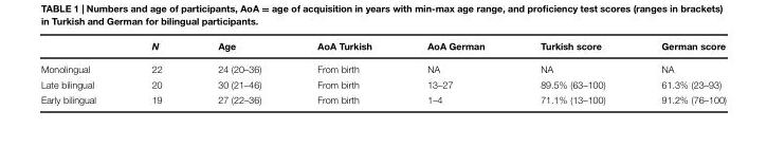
<table><thead><tr><td></td><td>N</td><td>Age</td><td>AoA Turkish</td><td>AoA German</td><td>Turkish score</td><td>German score</td></tr></thead><tbody><tr><td>Monolingual</td><td>22</td><td>24 (20–36)</td><td>From birth</td><td>NA</td><td>NA</td><td>NA</td></tr><tr><td>Late bilingual</td><td>20</td><td>30 (21–46)</td><td>From birth</td><td>13–27</td><td>89.5% (63–100)</td><td>61.3% (23–93)</td></tr><tr><td>Early bilingual</td><td>19</td><td>27 (22–36)</td><td>From birth</td><td>1–4</td><td>71.1% (13–100)</td><td>91.2% (76–100)</td></tr></tbody></table>